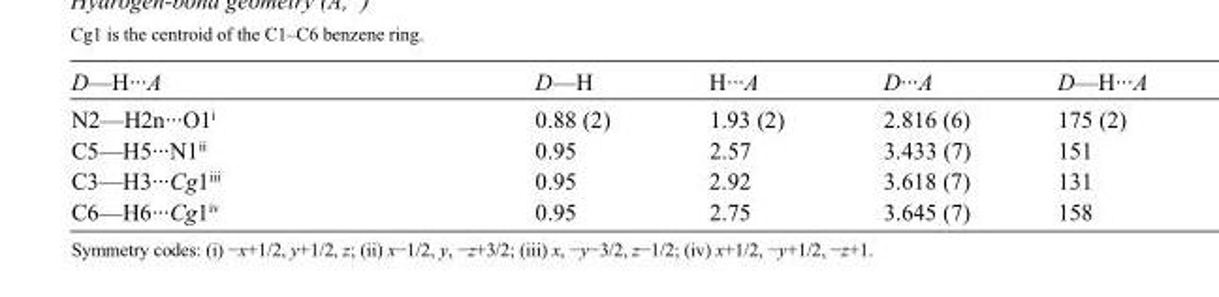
<table><tbody><tr><td>D—H···A</td><td>D—H</td><td>H···A</td><td>D···A</td><td>D—H···A</td></tr><tr><td>N2—H2n···O1<sup>i</sup></td><td>0.88 (2)</td><td>1.93 (2)</td><td>2.816 (6)</td><td>175 (2)</td></tr><tr><td>C5—H5···N1<sup>ii</sup></td><td>0.95</td><td>2.57</td><td>3.433 (7)</td><td>151</td></tr><tr><td>C3—H3···Cg1<sup>iii</sup></td><td>0.95</td><td>2.92</td><td>3.618 (7)</td><td>131</td></tr><tr><td>C6—H6···Cg1<sup>iv</sup></td><td>0.95</td><td>2.75</td><td>3.645 (7)</td><td>158</td></tr></tbody></table>